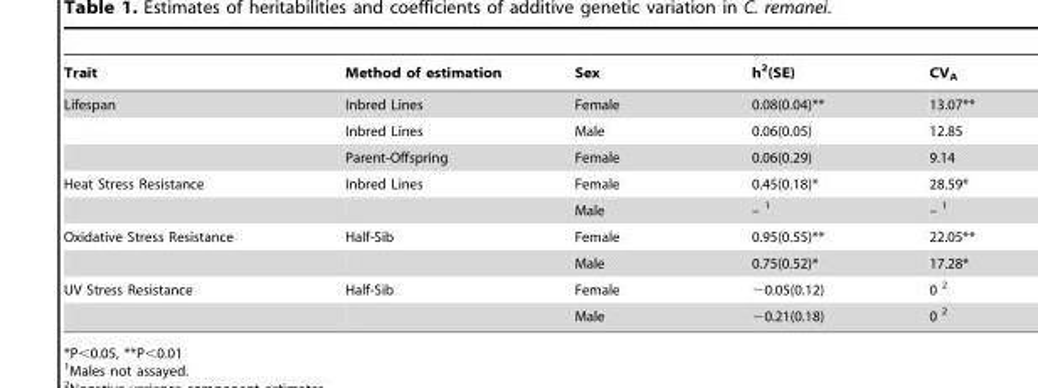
<table><thead><tr><td>Trait</td><td>Method of estimation</td><td>Sex</td><td>h<sup>2</sup>(SE)</td><td>CV<sub>A</sub></td></tr></thead><tbody><tr><td rowspan="3">Lifespan</td><td>Inbred Lines</td><td>Female</td><td>0.08(0.04)**</td><td>13.07**</td></tr><tr><td>Inbred Lines</td><td>Male</td><td>0.06(0.05)</td><td>12.85</td></tr><tr><td>Parent-Offspring</td><td>Female</td><td>0.06(0.29)</td><td>9.14</td></tr><tr><td rowspan="2">Heat Stress Resistance</td><td>Inbred Lines</td><td>Female</td><td>0.45(0.18)*</td><td>28.59*</td></tr><tr><td></td><td>Male</td><td>– 1</td><td>– 1</td></tr><tr><td rowspan="2">Oxidative Stress Resistance</td><td>Half-Sib</td><td>Female</td><td>0.95(0.55)**</td><td>22.05**</td></tr><tr><td></td><td>Male</td><td>0.75(0.52)*</td><td>17.28*</td></tr><tr><td rowspan="2">UV Stress Resistance</td><td>Half-Sib</td><td>Female</td><td>−0.05(0.12)</td><td>0 2</td></tr><tr><td></td><td>Male</td><td>−0.21(0.18)</td><td>0 2</td></tr></tbody></table>